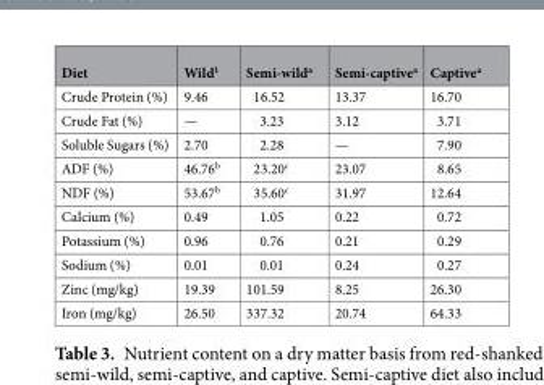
<table><thead><tr><td>Diet</td><td>Wild<sup>1</sup></td><td>Semi-wild<sup>a</sup></td><td>Semi-captive<sup>a</sup></td><td>Captive<sup>a</sup></td></tr></thead><tbody><tr><td>Crude Protein (%)</td><td>9.46</td><td>16.52</td><td>13.37</td><td>16.70</td></tr><tr><td>Crude Fat (%)</td><td>—</td><td>3.23</td><td>3.12</td><td>3.71</td></tr><tr><td>Soluble Sugars (%)</td><td>2.70</td><td>2.28</td><td>—</td><td>7.90</td></tr><tr><td>ADF (%)</td><td>46.76<sup>b</sup></td><td>23.20<sup>c</sup></td><td>23.07</td><td>8.65</td></tr><tr><td>NDF (%)</td><td>53.67<sup>b</sup></td><td>35.60<sup>c</sup></td><td>31.97</td><td>12.64</td></tr><tr><td>Calcium (%)</td><td>0.49</td><td>1.05</td><td>0.22</td><td>0.72</td></tr><tr><td>Potassium (%)</td><td>0.96</td><td>0.76</td><td>0.21</td><td>0.29</td></tr><tr><td>Sodium (%)</td><td>0.01</td><td>0.01</td><td>0.24</td><td>0.27</td></tr><tr><td>Zinc (mg/kg)</td><td>19.39</td><td>101.59</td><td>8.25</td><td>26.30</td></tr><tr><td>Iron (mg/kg)</td><td>26.50</td><td>337.32</td><td>20.74</td><td>64.33</td></tr></tbody></table>